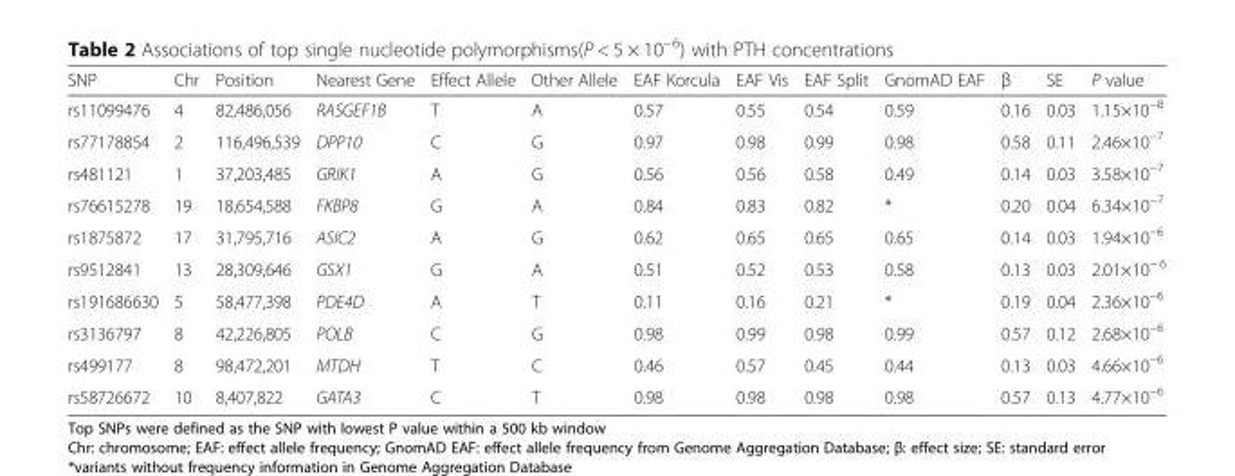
<table><thead><tr><td>SNP</td><td>Chr</td><td>Position</td><td>Nearest Gene</td><td>Effect Allele</td><td>Other Allele</td><td>EAF Korcula</td><td>EAF Vis</td><td>EAF Split</td><td>GnomAD EAF</td><td>β</td><td>SE</td><td>P value</td></tr></thead><tbody><tr><td>rs11099476</td><td>4</td><td>82,486,056</td><td>RASGEF1B</td><td>T</td><td>A</td><td>0.57</td><td>0.55</td><td>0.54</td><td>0.59</td><td>0.16</td><td>0.03</td><td>1.15×10<sup>−8</sup></td></tr><tr><td>rs77178854</td><td>2</td><td>116,496,539</td><td>DPP10</td><td>C</td><td>G</td><td>0.97</td><td>0.98</td><td>0.99</td><td>0.98</td><td>0.58</td><td>0.11</td><td>2.46×10<sup>−7</sup></td></tr><tr><td>rs481121</td><td>1</td><td>37,203,485</td><td>GRIK1</td><td>A</td><td>G</td><td>0.56</td><td>0.56</td><td>0.58</td><td>0.49</td><td>0.14</td><td>0.03</td><td>3.58×10<sup>−7</sup></td></tr><tr><td>rs76615278</td><td>19</td><td>18,654,588</td><td>FKBP8</td><td>G</td><td>A</td><td>0.84</td><td>0.83</td><td>0.82</td><td>*</td><td>0.20</td><td>0.04</td><td>6.34×10<sup>−7</sup></td></tr><tr><td>rs1875872</td><td>17</td><td>31,795,716</td><td>ASIC2</td><td>A</td><td>G</td><td>0.62</td><td>0.65</td><td>0.65</td><td>0.65</td><td>0.14</td><td>0.03</td><td>1.94×10<sup>−6</sup></td></tr><tr><td>rs9512841</td><td>13</td><td>28,309,646</td><td>GSX1</td><td>G</td><td>A</td><td>0.51</td><td>0.52</td><td>0.53</td><td>0.58</td><td>0.13</td><td>0.03</td><td>2.01×10<sup>− 6</sup></td></tr><tr><td>rs191686630</td><td>5</td><td>58,477,398</td><td>PDE4D</td><td>A</td><td>T</td><td>0.11</td><td>0.16</td><td>0.21</td><td>*</td><td>0.19</td><td>0.04</td><td>2.36×10<sup>−6</sup></td></tr><tr><td>rs3136797</td><td>8</td><td>42,226,805</td><td>POLB</td><td>C</td><td>G</td><td>0.98</td><td>0.99</td><td>0.98</td><td>0.99</td><td>0.57</td><td>0.12</td><td>2.68×10<sup>−6</sup></td></tr><tr><td>rs499177</td><td>8</td><td>98,472,201</td><td>MTDH</td><td>T</td><td>C</td><td>0.46</td><td>0.57</td><td>0.45</td><td>0.44</td><td>0.13</td><td>0.03</td><td>4.66×10<sup>−6</sup></td></tr><tr><td>rs58726672</td><td>10</td><td>8,407,822</td><td>GATA3</td><td>C</td><td>T</td><td>0.98</td><td>0.98</td><td>0.98</td><td>0.98</td><td>0.57</td><td>0.13</td><td>4.77×10<sup>−6</sup></td></tr></tbody></table>